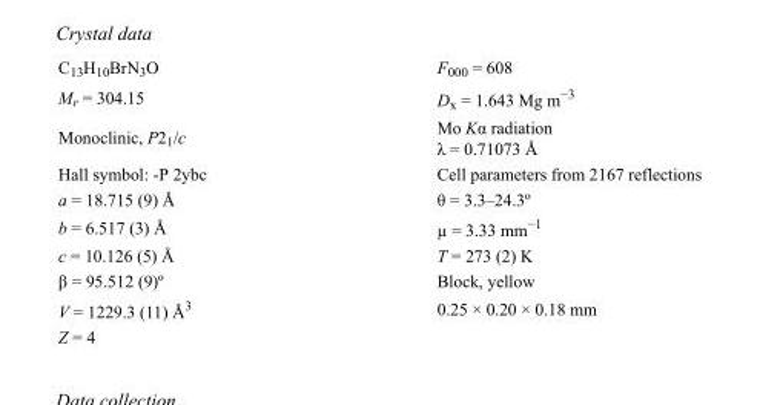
<table><tbody><tr><td>C<sub>13</sub>H<sub>10</sub>BrN<sub>3</sub>O</td><td>F<sub>000</sub> = 608</td></tr><tr><td>M<sub>r</sub> = 304.15</td><td>D<sub>x</sub> = 1.643 Mg m<sup>−3</sup></td></tr><tr><td>Monoclinic, P2<sub>1</sub>/c</td><td>Mo Kα radiation λ = 0.71073 Å</td></tr><tr><td>Hall symbol: -P 2ybc</td><td>Cell parameters from 2167 reflections</td></tr><tr><td>a = 18.715 (9) Å</td><td>θ = 3.3–24.3º</td></tr><tr><td>b = 6.517 (3) Å</td><td>µ = 3.33 mm<sup>−1</sup></td></tr><tr><td>c = 10.126 (5) Å</td><td>T = 273 (2) K</td></tr><tr><td>β = 95.512 (9)º</td><td>Block, yellow</td></tr><tr><td>V = 1229.3 (11) Å<sup>3</sup></td><td>0.25 × 0.20 × 0.18 mm</td></tr><tr><td>Z = 4</td><td></td></tr></tbody></table>